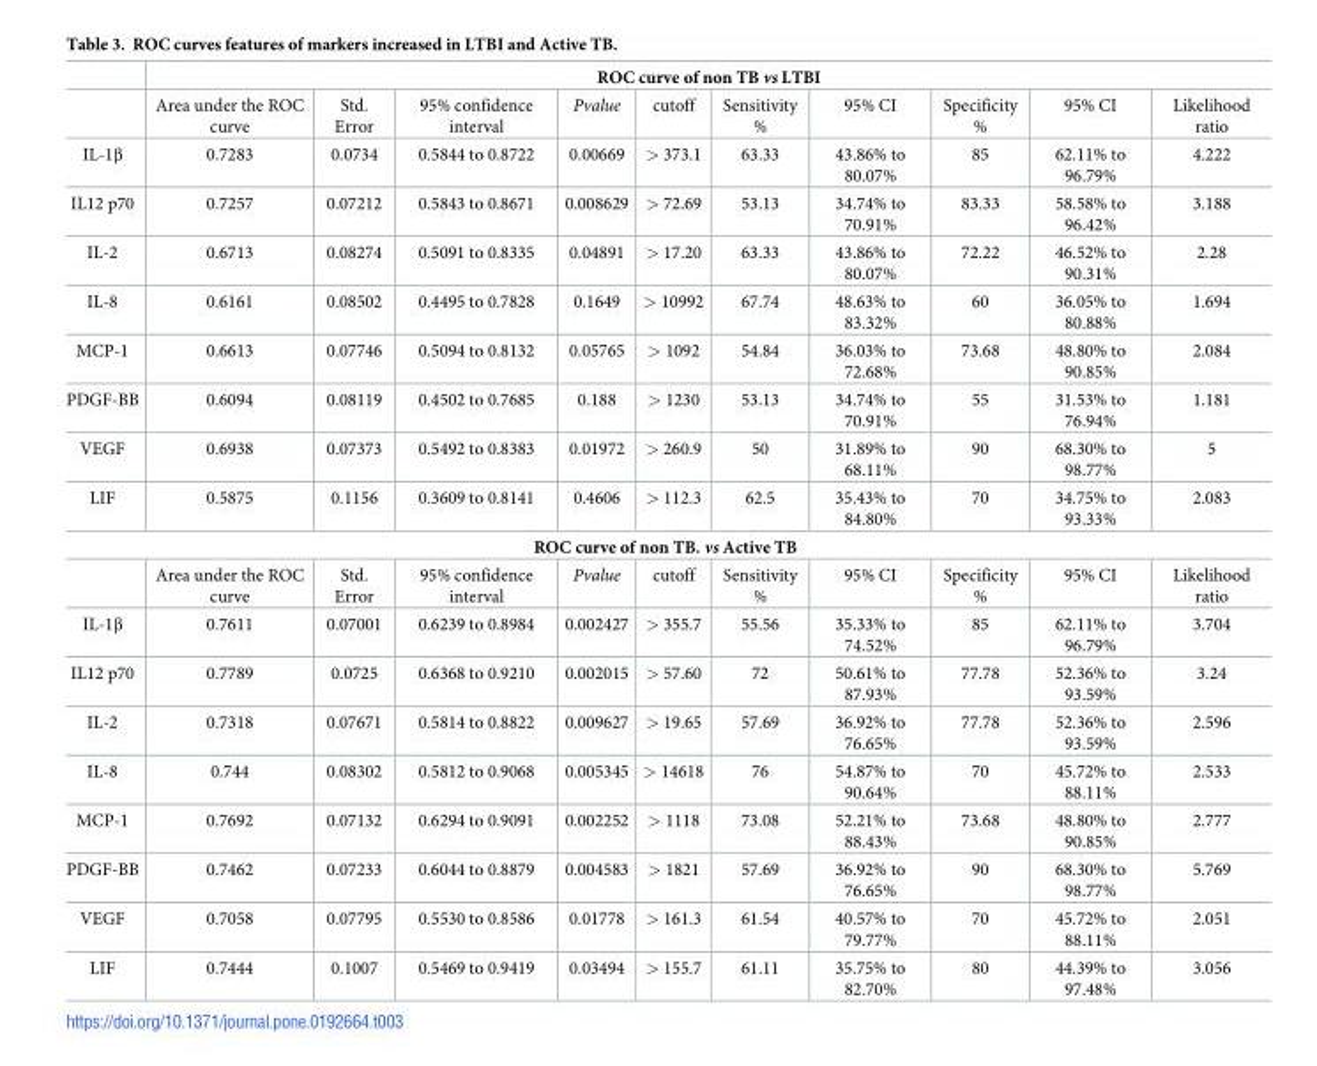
<table><thead><tr><td rowspan="2"></td><td colspan="10">ROC curve of non TB vs LTBI</td></tr><tr><td>Area under the ROC curve</td><td>Std. Error</td><td>95% confidence interval</td><td>Pvalue</td><td>cutoff</td><td>Sensitivity %</td><td>95% CI</td><td>Specificity %</td><td>95% CI</td><td>Likelihood ratio</td></tr></thead><tbody><tr><td>IL-1β</td><td>0.7283</td><td>0.0734</td><td>0.5844 to 0.8722</td><td>0.00669</td><td>&gt; 373.1</td><td>63.33</td><td>43.86% to 80.07%</td><td>85</td><td>62.11% to 96.79%</td><td>4.222</td></tr><tr><td>IL12 p70</td><td>0.7257</td><td>0.07212</td><td>0.5843 to 0.8671</td><td>0.008629</td><td>&gt; 72.69</td><td>53.13</td><td>34.74% to 70.91%</td><td>83.33</td><td>58.58% to 96.42%</td><td>3.188</td></tr><tr><td>IL-2</td><td>0.6713</td><td>0.08274</td><td>0.5091 to 0.8335</td><td>0.04891</td><td>&gt; 17.20</td><td>63.33</td><td>43.86% to 80.07%</td><td>72.22</td><td>46.52% to 90.31%</td><td>2.28</td></tr><tr><td>IL-8</td><td>0.6161</td><td>0.08502</td><td>0.4495 to 0.7828</td><td>0.1649</td><td>&gt; 10992</td><td>67.74</td><td>48.63% to 83.32%</td><td>60</td><td>36.05% to 80.88%</td><td>1.694</td></tr><tr><td>MCP-1</td><td>0.6613</td><td>0.07746</td><td>0.5094 to 0.8132</td><td>0.05765</td><td>&gt; 1092</td><td>54.84</td><td>36.03% to 72.68%</td><td>73.68</td><td>48.80% to 90.85%</td><td>2.084</td></tr><tr><td>PDGF-BB</td><td>0.6094</td><td>0.08119</td><td>0.4502 to 0.7685</td><td>0.188</td><td>&gt; 1230</td><td>53.13</td><td>34.74% to 70.91%</td><td>55</td><td>31.53% to 76.94%</td><td>1.181</td></tr><tr><td>VEGF</td><td>0.6938</td><td>0.07373</td><td>0.5492 to 0.8383</td><td>0.01972</td><td>&gt; 260.9</td><td>50</td><td>31.89% to 68.11%</td><td>90</td><td>68.30% to 98.77%</td><td>5</td></tr><tr><td>LIF</td><td>0.5875</td><td>0.1156</td><td>0.3609 to 0.8141</td><td>0.4606</td><td>&gt; 112.3</td><td>62.5</td><td>35.43% to 84.80%</td><td>70</td><td>34.75% to 93.33%</td><td>2.083</td></tr><tr><td colspan="11">ROC curve of non TB. vs Active TB</td></tr><tr><td></td><td>Area under the ROC curve</td><td>Std. Error</td><td>95% confidence interval</td><td>Pvalue</td><td>cutoff</td><td>Sensitivity %</td><td>95% CI</td><td>Specificity %</td><td>95% CI</td><td>Likelihood ratio</td></tr><tr><td>IL-1β</td><td>0.7611</td><td>0.07001</td><td>0.6239 to 0.8984</td><td>0.002427</td><td>&gt; 355.7</td><td>55.56</td><td>35.33% to 74.52%</td><td>85</td><td>62.11% to 96.79%</td><td>3.704</td></tr><tr><td>IL12 p70</td><td>0.7789</td><td>0.0725</td><td>0.6368 to 0.9210</td><td>0.002015</td><td>&gt; 57.60</td><td>72</td><td>50.61% to 87.93%</td><td>77.78</td><td>52.36% to 93.59%</td><td>3.24</td></tr><tr><td>IL-2</td><td>0.7318</td><td>0.07671</td><td>0.5814 to 0.8822</td><td>0.009627</td><td>&gt; 19.65</td><td>57.69</td><td>36.92% to 76.65%</td><td>77.78</td><td>52.36% to 93.59%</td><td>2.596</td></tr><tr><td>IL-8</td><td>0.744</td><td>0.08302</td><td>0.5812 to 0.9068</td><td>0.005345</td><td>&gt; 14618</td><td>76</td><td>54.87% to 90.64%</td><td>70</td><td>45.72% to 88.11%</td><td>2.533</td></tr><tr><td>MCP-1</td><td>0.7692</td><td>0.07132</td><td>0.6294 to 0.9091</td><td>0.002252</td><td>&gt; 1118</td><td>73.08</td><td>52.21% to 88.43%</td><td>73.68</td><td>48.80% to 90.85%</td><td>2.777</td></tr><tr><td>PDGF-BB</td><td>0.7462</td><td>0.07233</td><td>0.6044 to 0.8879</td><td>0.004583</td><td>&gt; 1821</td><td>57.69</td><td>36.92% to 76.65%</td><td>90</td><td>68.30% to 98.77%</td><td>5.769</td></tr><tr><td>VEGF</td><td>0.7058</td><td>0.07795</td><td>0.5530 to 0.8586</td><td>0.01778</td><td>&gt; 161.3</td><td>61.54</td><td>40.57% to 79.77%</td><td>70</td><td>45.72% to 88.11%</td><td>2.051</td></tr><tr><td>LIF</td><td>0.7444</td><td>0.1007</td><td>0.5469 to 0.9419</td><td>0.03494</td><td>&gt; 155.7</td><td>61.11</td><td>35.75% to 82.70%</td><td>80</td><td>44.39% to 97.48%</td><td>3.056</td></tr></tbody></table>